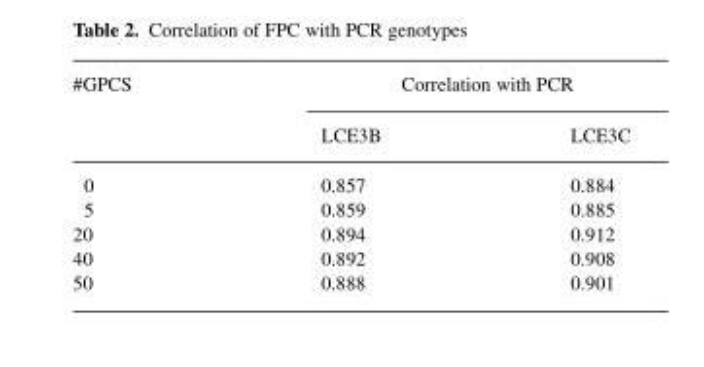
<table><thead><tr><td rowspan="2">#GPCS</td><td colspan="2">Correlation with PCR</td></tr><tr><td>LCE3B</td><td>LCE3C</td></tr></thead><tbody><tr><td>0</td><td>0.857</td><td>0.884</td></tr><tr><td>5</td><td>0.859</td><td>0.885</td></tr><tr><td>20</td><td>0.894</td><td>0.912</td></tr><tr><td>40</td><td>0.892</td><td>0.908</td></tr><tr><td>50</td><td>0.888</td><td>0.901</td></tr></tbody></table>